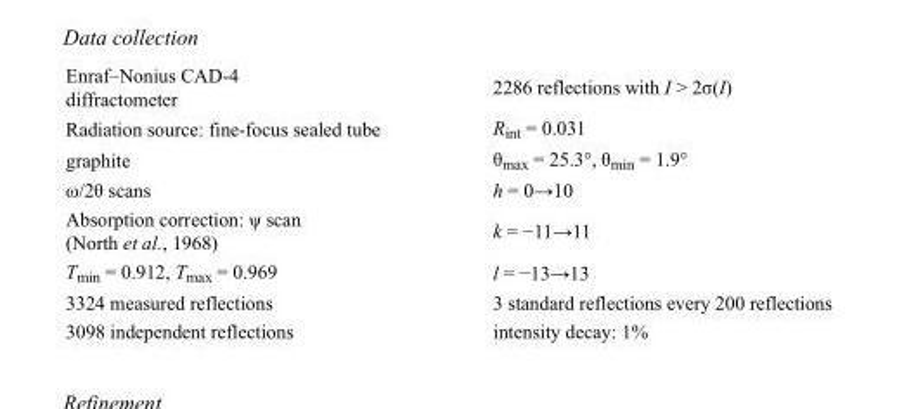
<table><tbody><tr><td>Enraf–Nonius CAD-4 diffractometer</td><td>2286 reflections with I &gt; 2σ(I)</td></tr><tr><td>Radiation source: fine-focus sealed tube</td><td>R<sub>int</sub> = 0.031</td></tr><tr><td>graphite</td><td>θ<sub>max</sub> = 25.3°, θ<sub>min</sub> = 1.9°</td></tr><tr><td>ω/2θ scans</td><td>h = 0→10</td></tr><tr><td>Absorption correction: ψ scan (North et al., 1968)</td><td>k = −11→11</td></tr><tr><td>T<sub>min</sub> = 0.912, T<sub>max</sub> = 0.969</td><td>l = −13→13</td></tr><tr><td>3324 measured reflections</td><td>3 standard reflections every 200 reflections</td></tr><tr><td>3098 independent reflections</td><td>intensity decay: 1%</td></tr></tbody></table>